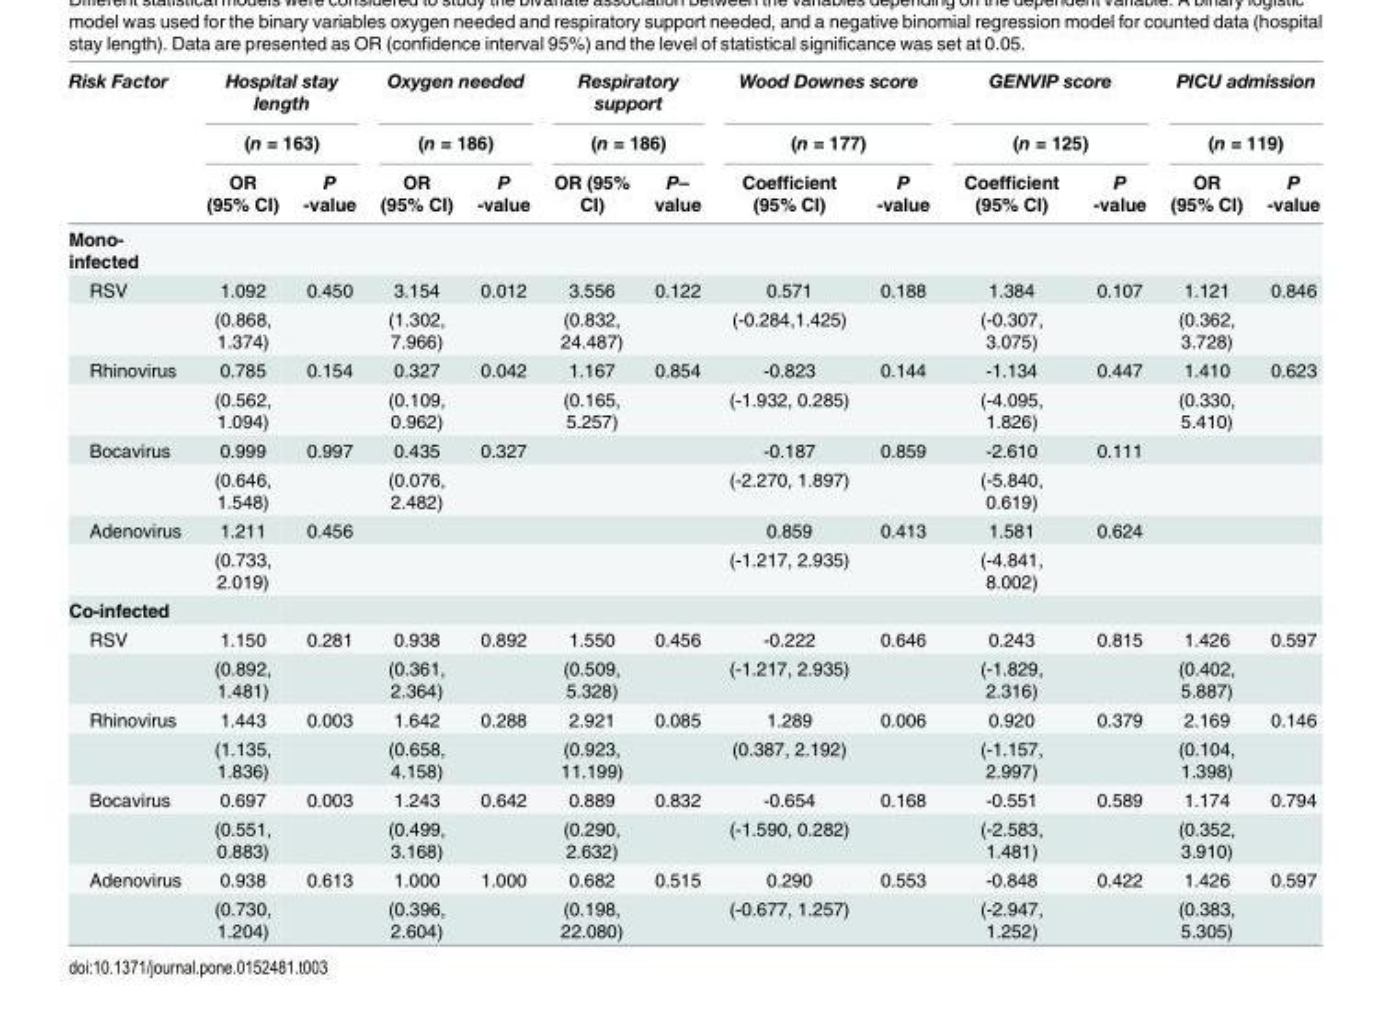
<table><thead><tr><td rowspan="3">Risk Factor</td><td rowspan="2" colspan="2">Hospital stay length (n = 163)</td><td rowspan="2" colspan="2">Oxygen needed (n = 186)</td><td rowspan="2" colspan="2">Respiratory support (n = 186)</td><td rowspan="2" colspan="2">Wood Downes score (n = 177)</td><td rowspan="2" colspan="2">GENVIP score (n = 125)</td><td rowspan="2" colspan="2">PICU admission (n = 119)</td></tr><tr></tr><tr><td>OR (95% CI)</td><td>P -value</td><td>OR (95% CI)</td><td>P -value</td><td>OR (95% CI)</td><td>P– value</td><td>Coefficient (95% CI)</td><td>P -value</td><td>Coefficient (95% CI)</td><td>P -value</td><td>OR (95% CI)</td><td>P -value</td></tr></thead><tbody><tr><td colspan="13">Mono- infected</td></tr><tr><td rowspan="2">RSV</td><td>1.092</td><td>0.450</td><td>3.154</td><td>0.012</td><td>3.556</td><td>0.122</td><td>0.571</td><td>0.188</td><td>1.384</td><td>0.107</td><td>1.121</td><td>0.846</td></tr><tr><td>(0.868, 1.374)</td><td></td><td>(1.302, 7.966)</td><td></td><td>(0.832, 24.487)</td><td></td><td>(-0.284,1.425)</td><td></td><td>(-0.307, 3.075)</td><td></td><td>(0.362, 3.728)</td><td></td></tr><tr><td rowspan="2">Rhinovirus</td><td>0.785</td><td>0.154</td><td>0.327</td><td>0.042</td><td>1.167</td><td>0.854</td><td>-0.823</td><td>0.144</td><td>-1.134</td><td>0.447</td><td>1.410</td><td>0.623</td></tr><tr><td>(0.562, 1.094)</td><td></td><td>(0.109, 0.962)</td><td></td><td>(0.165, 5.257)</td><td></td><td>(-1.932, 0.285)</td><td></td><td>(-4.095, 1.826)</td><td></td><td>(0.330, 5.410)</td><td></td></tr><tr><td rowspan="2">Bocavirus</td><td>0.999</td><td>0.997</td><td>0.435</td><td>0.327</td><td></td><td></td><td>-0.187</td><td>0.859</td><td>-2.610</td><td>0.111</td><td></td><td></td></tr><tr><td>(0.646, 1.548)</td><td></td><td>(0.076, 2.482)</td><td></td><td></td><td></td><td>(-2.270, 1.897)</td><td></td><td>(-5.840, 0.619)</td><td></td><td></td><td></td></tr><tr><td rowspan="2">Adenovirus</td><td>1.211</td><td>0.456</td><td></td><td></td><td></td><td></td><td>0.859</td><td>0.413</td><td>1.581</td><td>0.624</td><td></td><td></td></tr><tr><td>(0.733, 2.019)</td><td></td><td></td><td></td><td></td><td></td><td>(-1.217, 2.935)</td><td></td><td>(-4.841, 8.002)</td><td></td><td></td><td></td></tr><tr><td colspan="13">Co-infected</td></tr><tr><td rowspan="2">RSV</td><td>1.150</td><td>0.281</td><td>0.938</td><td>0.892</td><td>1.550</td><td>0.456</td><td>-0.222</td><td>0.646</td><td>0.243</td><td>0.815</td><td>1.426</td><td>0.597</td></tr><tr><td>(0.892, 1.481)</td><td></td><td>(0.361, 2.364)</td><td></td><td>(0.509, 5.328)</td><td></td><td>(-1.217, 2.935)</td><td></td><td>(-1.829, 2.316)</td><td></td><td>(0.402, 5.887)</td><td></td></tr><tr><td rowspan="2">Rhinovirus</td><td>1.443</td><td>0.003</td><td>1.642</td><td>0.288</td><td>2.921</td><td>0.085</td><td>1.289</td><td>0.006</td><td>0.920</td><td>0.379</td><td>2.169</td><td>0.146</td></tr><tr><td>(1.135, 1.836)</td><td></td><td>(0.658, 4.158)</td><td></td><td>(0.923, 11.199)</td><td></td><td>(0.387, 2.192)</td><td></td><td>(-1.157, 2.997)</td><td></td><td>(0.104, 1.398)</td><td></td></tr><tr><td rowspan="2">Bocavirus</td><td>0.697</td><td>0.003</td><td>1.243</td><td>0.642</td><td>0.889</td><td>0.832</td><td>-0.654</td><td>0.168</td><td>-0.551</td><td>0.589</td><td>1.174</td><td>0.794</td></tr><tr><td>(0.551, 0.883)</td><td></td><td>(0.499, 3.168)</td><td></td><td>(0.290, 2.632)</td><td></td><td>(-1.590, 0.282)</td><td></td><td>(-2.583, 1.481)</td><td></td><td>(0.352, 3.910)</td><td></td></tr><tr><td rowspan="2">Adenovirus</td><td>0.938</td><td>0.613</td><td>1.000</td><td>1.000</td><td>0.682</td><td>0.515</td><td>0.290</td><td>0.553</td><td>-0.848</td><td>0.422</td><td>1.426</td><td>0.597</td></tr><tr><td>(0.730, 1.204)</td><td></td><td>(0.396, 2.604)</td><td></td><td>(0.198, 22.080)</td><td></td><td>(-0.677, 1.257)</td><td></td><td>(-2.947, 1.252)</td><td></td><td>(0.383, 5.305)</td><td></td></tr></tbody></table>